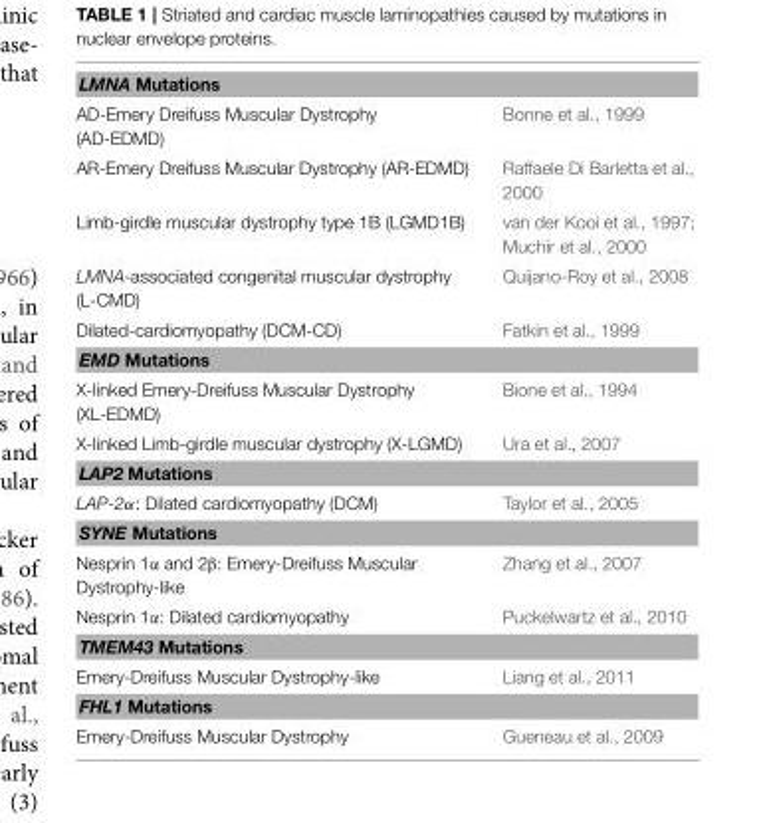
<table><tbody><tr><td colspan="2">LMNA Mutations</td></tr><tr><td>AD-Emery Dreifuss Muscular Dystrophy (AD-EDMD)</td><td>Bonne et al., 1999</td></tr><tr><td>AR-Emery Dreifuss Muscular Dystrophy (AR-EDMD)</td><td>Raffaele Di Barletta et al., 2000</td></tr><tr><td>Limb-girdle muscular dystrophy type 1B (LGMD1B)</td><td>van der Kooi et al., 1997; Muchir et al., 2000</td></tr><tr><td>LMNA-associated congenital muscular dystrophy (L-CMD)</td><td>Quijano-Roy et al., 2008</td></tr><tr><td>Dilated-cardiomyopathy (DCM-CD)</td><td>Fatkin et al., 1999</td></tr><tr><td colspan="2">EMD Mutations</td></tr><tr><td>X-linked Emery-Dreifuss Muscular Dystrophy (XL-EDMD)</td><td>Bione et al., 1994</td></tr><tr><td>X-linked Limb-girdle muscular dystrophy (X-LGMD)</td><td>Ura et al., 2007</td></tr><tr><td colspan="2">LAP2 Mutations</td></tr><tr><td>LAP-2α: Dilated cardiomyopathy (DCM)</td><td>Taylor et al., 2005</td></tr><tr><td colspan="2">SYNE Mutations</td></tr><tr><td>Nesprin 1α and 2β: Emery-Dreifuss Muscular Dystrophy-like</td><td>Zhang et al., 2007</td></tr><tr><td>Nesprin 1α: Dilated cardiomyopathy</td><td>Puckelwartz et al., 2010</td></tr><tr><td colspan="2">TMEM43 Mutations</td></tr><tr><td>Emery-Dreifuss Muscular Dystrophy-like</td><td>Liang et al., 2011</td></tr><tr><td colspan="2">FHL1 Mutations</td></tr><tr><td>Emery-Dreifuss Muscular Dystrophy</td><td>Gueneau et al., 2009</td></tr></tbody></table>